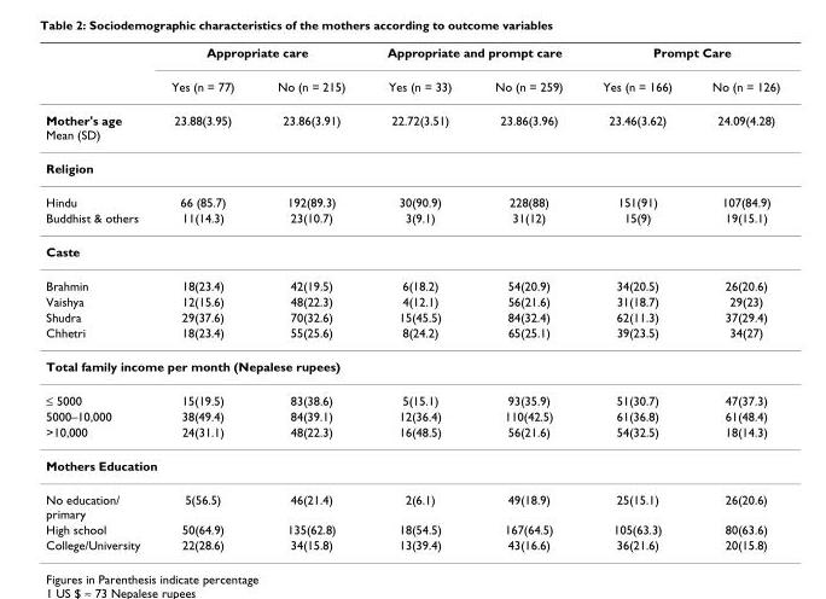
<table><thead><tr><td rowspan="2"></td><td colspan="2">Appropriate care</td><td colspan="2">Appropriate and prompt care</td><td colspan="2">Prompt Care</td></tr><tr><td>Yes (n = 77)</td><td>No (n = 215)</td><td>Yes (n = 33)</td><td>No (n = 259)</td><td>Yes (n = 166)</td><td>No (n = 126)</td></tr></thead><tbody><tr><td>Mother&#x27;s age Mean (SD)</td><td>23.88(3.95)</td><td>23.86(3.91)</td><td>22.72(3.51)</td><td>23.86(3.96)</td><td>23.46(3.62)</td><td>24.09(4.28)</td></tr><tr><td colspan="7">Religion</td></tr><tr><td>Hindu</td><td>66 (85.7)</td><td>192(89.3)</td><td>30(90.9)</td><td>228(88)</td><td>151(91)</td><td>107(84.9)</td></tr><tr><td>Buddhist &amp; others</td><td>11(14.3)</td><td>23(10.7)</td><td>3(9.1)</td><td>31(12)</td><td>15(9)</td><td>19(15.1)</td></tr><tr><td colspan="7">Caste</td></tr><tr><td>Brahmin</td><td>18(23.4)</td><td>42(19.5)</td><td>6(18.2)</td><td>54(20.9)</td><td>34(20.5)</td><td>26(20.6)</td></tr><tr><td>Vaishya</td><td>12(15.6)</td><td>48(22.3)</td><td>4(12.1)</td><td>56(21.6)</td><td>31(18.7)</td><td>29(23)</td></tr><tr><td>Shudra</td><td>29(37.6)</td><td>70(32.6)</td><td>15(45.5)</td><td>84(32.4)</td><td>62(11.3)</td><td>37(29.4)</td></tr><tr><td>Chhetri</td><td>18(23.4)</td><td>55(25.6)</td><td>8(24.2)</td><td>65(25.1)</td><td>39(23.5)</td><td>34(27)</td></tr><tr><td colspan="7">Total family income per month (Nepalese rupees)</td></tr><tr><td>≤ 5000</td><td>15(19.5)</td><td>83(38.6)</td><td>5(15.1)</td><td>93(35.9)</td><td>51(30.7)</td><td>47(37.3)</td></tr><tr><td>5000–10,000</td><td>38(49.4)</td><td>84(39.1)</td><td>12(36.4)</td><td>110(42.5)</td><td>61(36.8)</td><td>61(48.4)</td></tr><tr><td>&gt;10,000</td><td>24(31.1)</td><td>48(22.3)</td><td>16(48.5)</td><td>56(21.6)</td><td>54(32.5)</td><td>18(14.3)</td></tr><tr><td colspan="7">Mothers Education</td></tr><tr><td>No education/ primary</td><td>5(56.5)</td><td>46(21.4)</td><td>2(6.1)</td><td>49(18.9)</td><td>25(15.1)</td><td>26(20.6)</td></tr><tr><td>High school</td><td>50(64.9)</td><td>135(62.8)</td><td>18(54.5)</td><td>167(64.5)</td><td>105(63.3)</td><td>80(63.6)</td></tr><tr><td>College/University</td><td>22(28.6)</td><td>34(15.8)</td><td>13(39.4)</td><td>43(16.6)</td><td>36(21.6)</td><td>20(15.8)</td></tr></tbody></table>